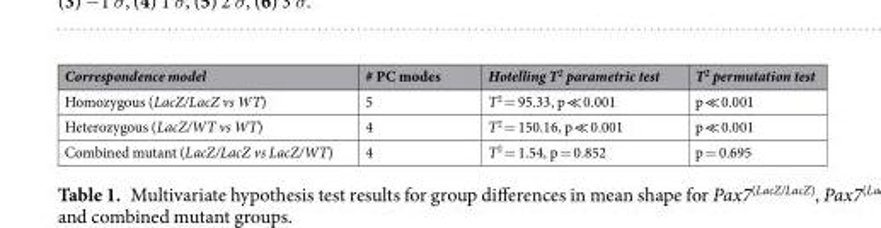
<table><thead><tr><td>Correspondence model</td><td># PC modes</td><td>Hotelling T<sup>2</sup> parametric test</td><td>T<sup>2</sup> permutation test</td></tr></thead><tbody><tr><td>Homozygous (LacZ/LacZ vs WT)</td><td>5</td><td>T<sup>2</sup> = 95.33, p ≪ 0.001</td><td>p ≪ 0.001</td></tr><tr><td>Heterozygous (LacZ/WT vs WT)</td><td>4</td><td>T<sup>2</sup> = 150.16, p ≪ 0.001</td><td>p ≪ 0.001</td></tr><tr><td>Combined mutant (LacZ/LacZ vs LacZ/WT)</td><td>4</td><td>T<sup>2</sup> = 1.54, p = 0.852</td><td>p = 0.695</td></tr></tbody></table>